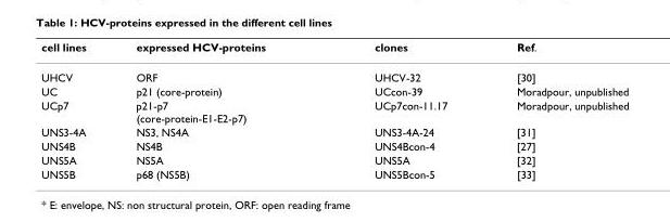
<table><thead><tr><td>cell lines</td><td>expressed HCV-proteins</td><td>clones</td><td>Ref.</td></tr></thead><tbody><tr><td>UHCV</td><td>ORF</td><td>UHCV-32</td><td>[30]</td></tr><tr><td>UC</td><td>p21 (core-protein)</td><td>UCcon-39</td><td>Moradpour, unpublished</td></tr><tr><td>UCp7</td><td>p21-p7 (core-protein-E1-E2-p7)</td><td>UCp7con-11.17</td><td>Moradpour, unpublished</td></tr><tr><td>UNS3-4A</td><td>NS3, NS4A</td><td>UNS3-4A-24</td><td>[31]</td></tr><tr><td>UNS4B</td><td>NS4B</td><td>UNS4Bcon-4</td><td>[27]</td></tr><tr><td>UNS5A</td><td>NS5A</td><td>UNS5A</td><td>[32]</td></tr><tr><td>UNS5B</td><td>p68 (NS5B)</td><td>UNS5Bcon-5</td><td>[33]</td></tr></tbody></table>